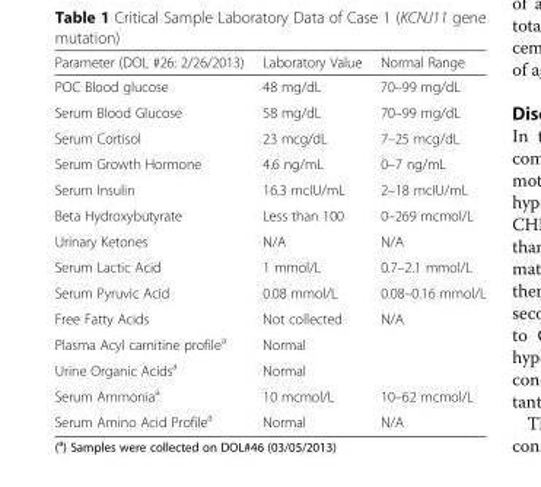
<table><thead><tr><td>Parameter (DOL #26: 2/26/2013)</td><td>Laboratory Value</td><td>Normal Range</td></tr></thead><tbody><tr><td>POC Blood glucose</td><td>48 mg/dL</td><td>70–99 mg/dL</td></tr><tr><td>Serum Blood Glucose</td><td>58 mg/dL</td><td>70–99 mg/dL</td></tr><tr><td>Serum Cortisol</td><td>23 mcg/dL</td><td>7–25 mcg/dL</td></tr><tr><td>Serum Growth Hormone</td><td>4.6 ng/mL</td><td>0–7 ng/mL</td></tr><tr><td>Serum Insulin</td><td>16.3 mcIU/mL</td><td>2–18 mcIU/mL</td></tr><tr><td>Beta Hydroxybutyrate</td><td>Less than 100</td><td>0–269 mcmol/L</td></tr><tr><td>Urinary Ketones</td><td>N/A</td><td>N/A</td></tr><tr><td>Serum Lactic Acid</td><td>1 mmol/L</td><td>0.7–2.1 mmol/L</td></tr><tr><td>Serum Pyruvic Acid</td><td>0.08 mmol/L</td><td>0.08–0.16 mmol/L</td></tr><tr><td>Free Fatty Acids</td><td>Not collected</td><td>N/A</td></tr><tr><td>Plasma Acyl carnitine profile<sup>a</sup></td><td>Normal</td><td></td></tr><tr><td>Urine Organic Acids<sup>a</sup></td><td>Normal</td><td></td></tr><tr><td>Serum Ammonia<sup>a</sup></td><td>10 mcmol/L</td><td>10–62 mcmol/L</td></tr><tr><td>Serum Amino Acid Profile<sup>a</sup></td><td>Normal</td><td>N/A</td></tr></tbody></table>